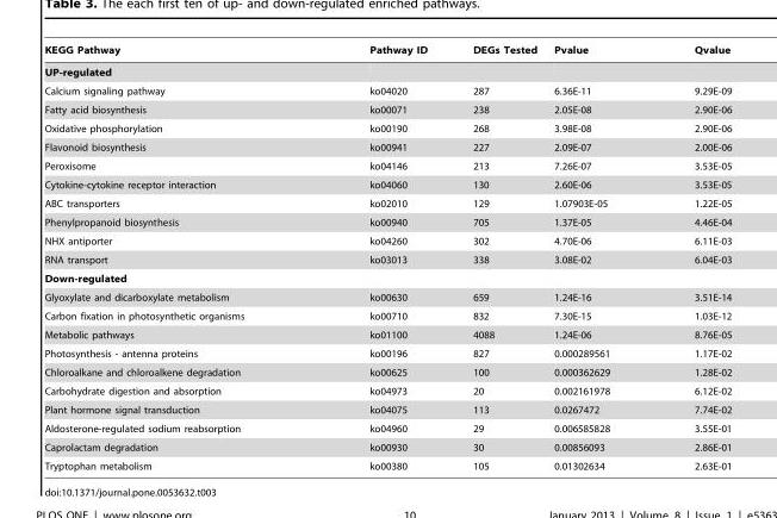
<table><thead><tr><td>KEGG Pathway</td><td>Pathway ID</td><td>DEGs Tested</td><td>Pvalue</td><td>Qvalue</td></tr></thead><tbody><tr><td colspan="5">UP-regulated</td></tr><tr><td>Calcium signaling pathway</td><td>ko04020</td><td>287</td><td>6.36E-11</td><td>9.29E-09</td></tr><tr><td>Fatty acid biosynthesis</td><td>ko00071</td><td>238</td><td>2.05E-08</td><td>2.90E-06</td></tr><tr><td>Oxidative phosphorylation</td><td>ko00190</td><td>268</td><td>3.98E-08</td><td>2.90E-06</td></tr><tr><td>Flavonoid biosynthesis</td><td>ko00941</td><td>227</td><td>2.09E-07</td><td>2.00E-06</td></tr><tr><td>Peroxisome</td><td>ko04146</td><td>213</td><td>7.26E-07</td><td>3.53E-05</td></tr><tr><td>Cytokine-cytokine receptor interaction</td><td>ko04060</td><td>130</td><td>2.60E-06</td><td>3.53E-05</td></tr><tr><td>ABC transporters</td><td>ko02010</td><td>129</td><td>1.07903E-05</td><td>1.22E-05</td></tr><tr><td>Phenylpropanoid biosynthesis</td><td>ko00940</td><td>705</td><td>1.37E-05</td><td>4.46E-04</td></tr><tr><td>NHX antiporter</td><td>ko04260</td><td>302</td><td>4.70E-06</td><td>6.11E-03</td></tr><tr><td>RNA transport</td><td>ko03013</td><td>338</td><td>3.08E-02</td><td>6.04E-03</td></tr><tr><td colspan="5">Down-regulated</td></tr><tr><td>Glyoxylate and dicarboxylate metabolism</td><td>ko00630</td><td>659</td><td>1.24E-16</td><td>3.51E-14</td></tr><tr><td>Carbon fixation in photosynthetic organisms</td><td>ko00710</td><td>832</td><td>7.30E-15</td><td>1.03E-12</td></tr><tr><td>Metabolic pathways</td><td>ko01100</td><td>4088</td><td>1.24E-06</td><td>8.76E-05</td></tr><tr><td>Photosynthesis - antenna proteins</td><td>ko00196</td><td>827</td><td>0.000289561</td><td>1.17E-02</td></tr><tr><td>Chloroalkane and chloroalkene degradation</td><td>ko00625</td><td>100</td><td>0.000362629</td><td>1.28E-02</td></tr><tr><td>Carbohydrate digestion and absorption</td><td>ko04973</td><td>20</td><td>0.002161978</td><td>6.12E-02</td></tr><tr><td>Plant hormone signal transduction</td><td>ko04075</td><td>113</td><td>0.0267472</td><td>7.74E-02</td></tr><tr><td>Aldosterone-regulated sodium reabsorption</td><td>ko04960</td><td>29</td><td>0.006585828</td><td>3.55E-01</td></tr><tr><td>Caprolactam degradation</td><td>ko00930</td><td>30</td><td>0.00856093</td><td>2.86E-01</td></tr><tr><td>Tryptophan metabolism</td><td>ko00380</td><td>105</td><td>0.01302634</td><td>2.63E-01</td></tr></tbody></table>